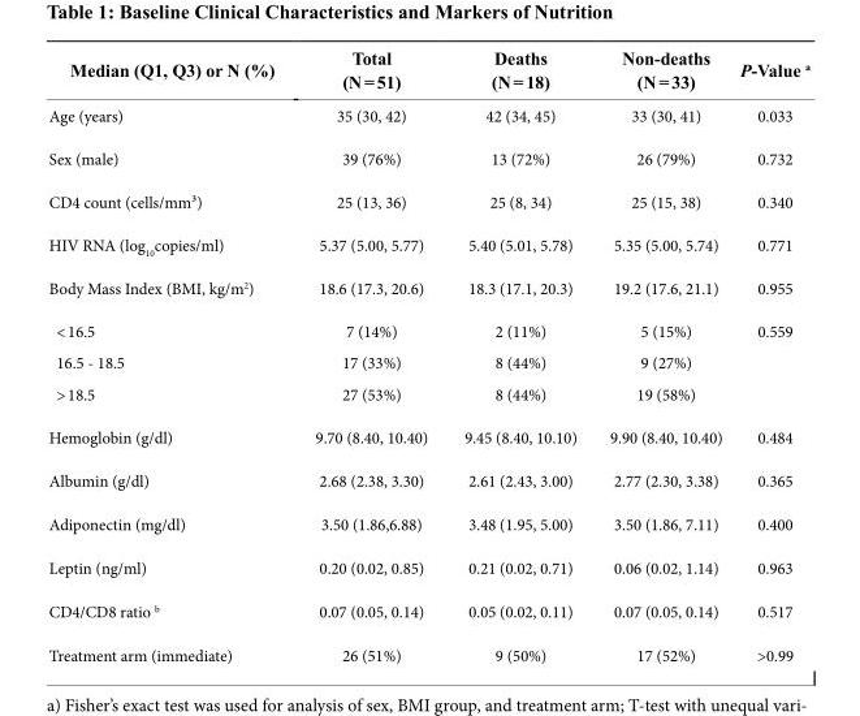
<table><thead><tr><td>Median (Q1, Q3) or N (%)</td><td>Total (N = 51)</td><td>Deaths (N = 18)</td><td>Non-deaths (N = 33)</td><td>P-Value <sup>a</sup></td></tr></thead><tbody><tr><td>Age (years)</td><td>35 (30, 42)</td><td>42 (34, 45)</td><td>33 (30, 41)</td><td>0.033</td></tr><tr><td>Sex (male)</td><td>39 (76%)</td><td>13 (72%)</td><td>26 (79%)</td><td>0.732</td></tr><tr><td>CD4 count (cells/mm³)</td><td>25 (13, 36)</td><td>25 (8, 34)</td><td>25 (15, 38)</td><td>0.340</td></tr><tr><td>HIV RNA (log<sub>10</sub>copies/ml)</td><td>5.37 (5.00, 5.77)</td><td>5.40 (5.01, 5.78)</td><td>5.35 (5.00, 5.74)</td><td>0.771</td></tr><tr><td>Body Mass Index (BMI, kg/m<sup>2</sup>)</td><td>18.6 (17.3, 20.6)</td><td>18.3 (17.1, 20.3)</td><td>19.2 (17.6, 21.1)</td><td>0.955</td></tr><tr><td>&lt; 16.5</td><td>7 (14%)</td><td>2 (11%)</td><td>5 (15%)</td><td>0.559</td></tr><tr><td>16.5 - 18.5</td><td>17 (33%)</td><td>8 (44%)</td><td>9 (27%)</td><td></td></tr><tr><td>&gt; 18.5</td><td>27 (53%)</td><td>8 (44%)</td><td>19 (58%)</td><td></td></tr><tr><td>Hemoglobin (g/dl)</td><td>9.70 (8.40, 10.40)</td><td>9.45 (8.40, 10.10)</td><td>9.90 (8.40, 10.40)</td><td>0.484</td></tr><tr><td>Albumin (g/dl)</td><td>2.68 (2.38, 3.30)</td><td>2.61 (2.43, 3.00)</td><td>2.77 (2.30, 3.38)</td><td>0.365</td></tr><tr><td>Adiponectin (mg/dl)</td><td>3.50 (1.86,6.88)</td><td>3.48 (1.95, 5.00)</td><td>3.50 (1.86, 7.11)</td><td>0.400</td></tr><tr><td>Leptin (ng/ml)</td><td>0.20 (0.02, 0.85)</td><td>0.21 (0.02, 0.71)</td><td>0.06 (0.02, 1.14)</td><td>0.963</td></tr><tr><td>CD4/CD8 ratio <sup>b</sup></td><td>0.07 (0.05, 0.14)</td><td>0.05 (0.02, 0.11)</td><td>0.07 (0.05, 0.14)</td><td>0.517</td></tr><tr><td>Treatment arm (immediate)</td><td>26 (51%)</td><td>9 (50%)</td><td>17 (52%)</td><td>&gt;0.99</td></tr></tbody></table>